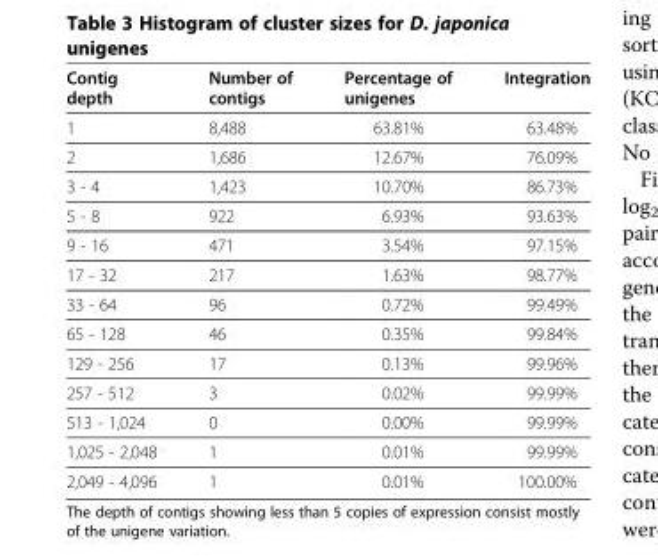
<table><thead><tr><td>Contig depth</td><td>Number of contigs</td><td>Percentage of unigenes</td><td>Integration</td></tr></thead><tbody><tr><td>1</td><td>8,488</td><td>63.81%</td><td>63.48%</td></tr><tr><td>2</td><td>1,686</td><td>12.67%</td><td>76.09%</td></tr><tr><td>3 - 4</td><td>1,423</td><td>10.70%</td><td>86.73%</td></tr><tr><td>5 - 8</td><td>922</td><td>6.93%</td><td>93.63%</td></tr><tr><td>9 - 16</td><td>471</td><td>3.54%</td><td>97.15%</td></tr><tr><td>17 - 32</td><td>217</td><td>1.63%</td><td>98.77%</td></tr><tr><td>33 - 64</td><td>96</td><td>0.72%</td><td>99.49%</td></tr><tr><td>65 - 128</td><td>46</td><td>0.35%</td><td>99.84%</td></tr><tr><td>129 - 256</td><td>17</td><td>0.13%</td><td>99.96%</td></tr><tr><td>257 - 512</td><td>3</td><td>0.02%</td><td>99.99%</td></tr><tr><td>513 - 1,024</td><td>0</td><td>0.00%</td><td>99.99%</td></tr><tr><td>1,025 - 2,048</td><td>1</td><td>0.01%</td><td>99.99%</td></tr><tr><td>2,049 - 4,096</td><td>1</td><td>0.01%</td><td>100.00%</td></tr></tbody></table>